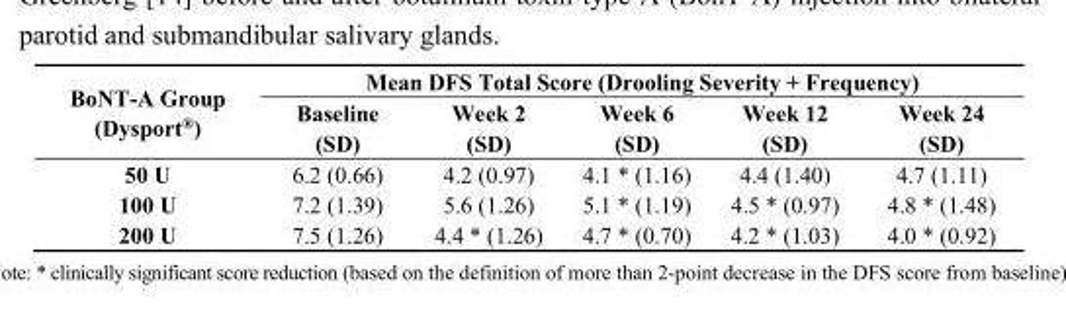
<table><thead><tr><td rowspan="2">BoNT-A Group (Dysport<sup>®</sup>)</td><td colspan="5">Mean DFS Total Score (Drooling Severity + Frequency)</td></tr><tr><td>Baseline (SD)</td><td>Week 2 (SD)</td><td>Week 6 (SD)</td><td>Week 12 (SD)</td><td>Week 24 (SD)</td></tr></thead><tbody><tr><td>50 U</td><td>6.2 (0.66)</td><td>4.2 (0.97)</td><td>4.1 * (1.16)</td><td>4.4 (1.40)</td><td>4.7 (1.11)</td></tr><tr><td>100 U</td><td>7.2 (1.39)</td><td>5.6 (1.26)</td><td>5.1 * (1.19)</td><td>4.5 * (0.97)</td><td>4.8 * (1.48)</td></tr><tr><td>200 U</td><td>7.5 (1.26)</td><td>4.4 * (1.26)</td><td>4.7 * (0.70)</td><td>4.2 * (1.03)</td><td>4.0 * (0.92)</td></tr></tbody></table>